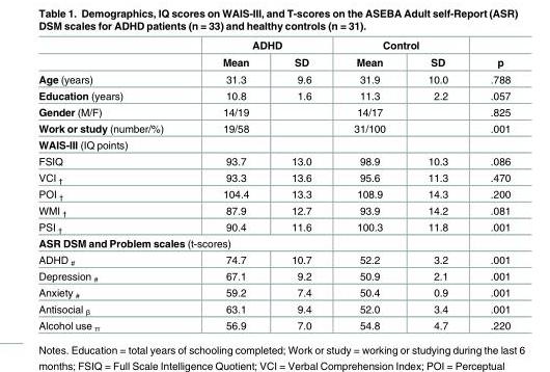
<table><thead><tr><td rowspan="2"></td><td colspan="2">ADHD</td><td colspan="2">Control</td><td rowspan="2">p</td></tr><tr><td>Mean</td><td>SD</td><td>Mean</td><td>SD</td></tr></thead><tbody><tr><td>Age (years)</td><td>31.3</td><td>9.6</td><td>31.9</td><td>10.0</td><td>.788</td></tr><tr><td>Education (years)</td><td>10.8</td><td>1.6</td><td>11.3</td><td>2.2</td><td>.057</td></tr><tr><td>Gender (M/F)</td><td>14/19</td><td></td><td>14/17</td><td></td><td>.825</td></tr><tr><td>Work or study (number/%)</td><td>19/58</td><td></td><td>31/100</td><td></td><td>.001</td></tr><tr><td colspan="6">WAIS-III (IQ points)</td></tr><tr><td>FSIQ</td><td>93.7</td><td>13.0</td><td>98.9</td><td>10.3</td><td>.086</td></tr><tr><td>VCI <sub>†</sub></td><td>93.3</td><td>13.6</td><td>95.6</td><td>11.3</td><td>.470</td></tr><tr><td>POI <sub>†</sub></td><td>104.4</td><td>13.3</td><td>108.9</td><td>14.3</td><td>.200</td></tr><tr><td>WMI <sub>†</sub></td><td>87.9</td><td>12.7</td><td>93.9</td><td>14.2</td><td>.081</td></tr><tr><td>PSI <sub>†</sub></td><td>90.4</td><td>11.6</td><td>100.3</td><td>11.8</td><td>.001</td></tr><tr><td colspan="6">ASR DSM and Problem scales (t-scores)</td></tr><tr><td>ADHD <sub>#</sub></td><td>74.7</td><td>10.7</td><td>52.2</td><td>3.2</td><td>.001</td></tr><tr><td>Depression <sub>#</sub></td><td>67.1</td><td>9.2</td><td>50.9</td><td>2.1</td><td>.001</td></tr><tr><td>Anxiety <sub>#</sub></td><td>59.2</td><td>7.4</td><td>50.4</td><td>0.9</td><td>.001</td></tr><tr><td>Antisocial <sub>β</sub></td><td>63.1</td><td>9.4</td><td>52.0</td><td>3.4</td><td>.001</td></tr><tr><td>Alcohol use <sub>π</sub></td><td>56.9</td><td>7.0</td><td>54.8</td><td>4.7</td><td>.220</td></tr></tbody></table>